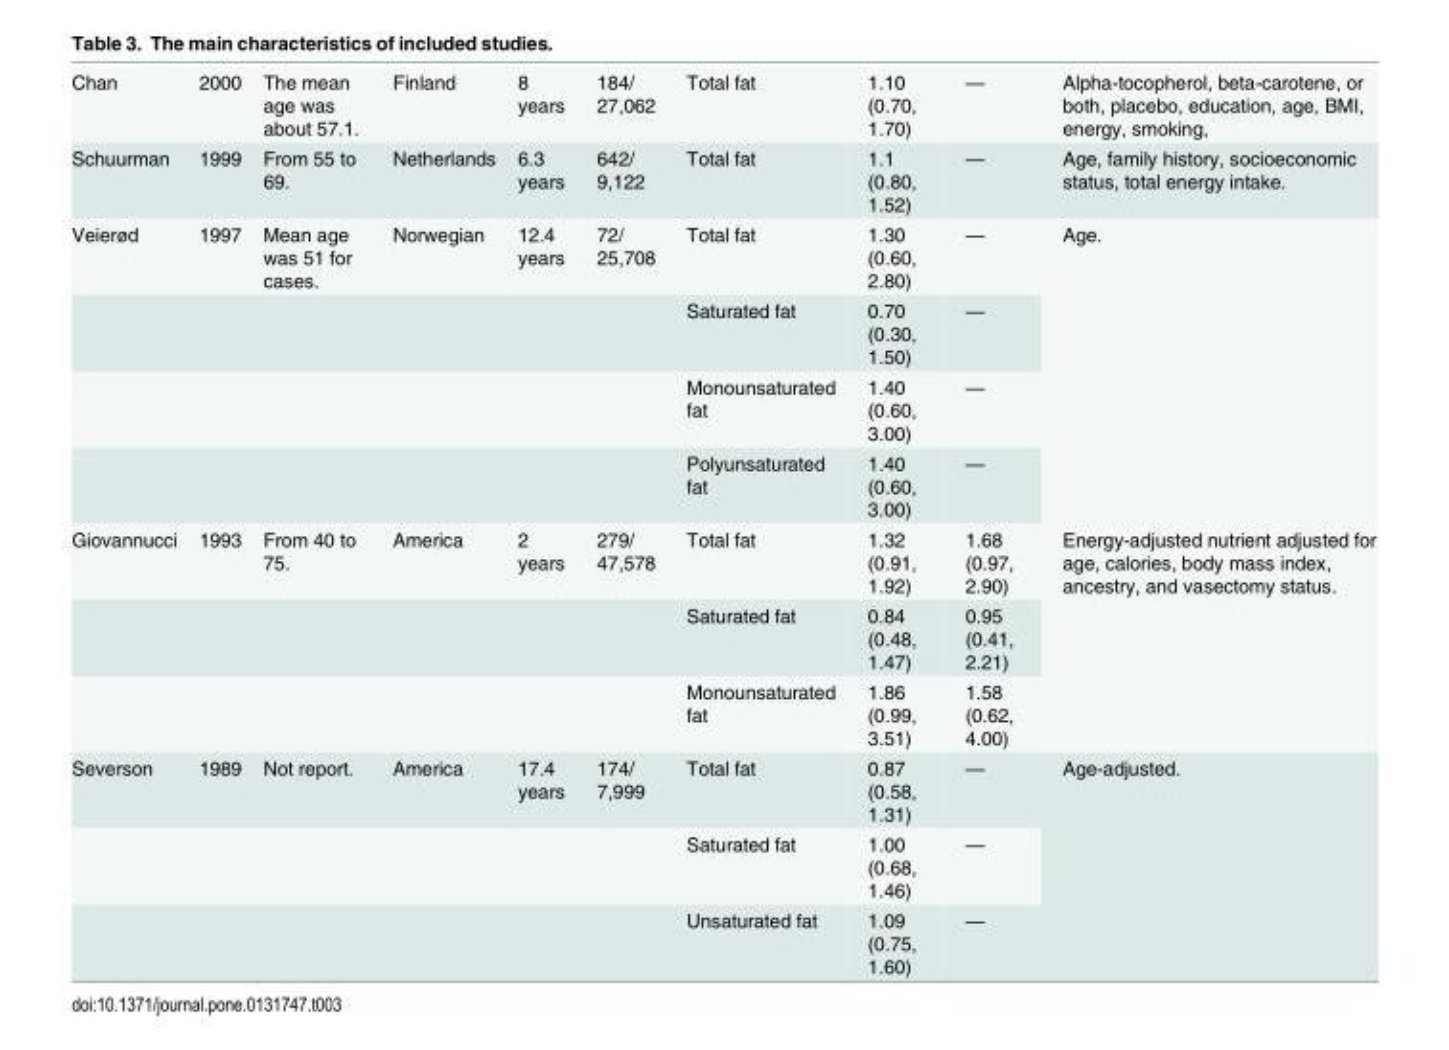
<table><tbody><tr><td>Chan</td><td>2000</td><td>The mean age was about 57.1.</td><td>Finland</td><td>8 years</td><td>184/ 27,062</td><td>Total fat</td><td>1.10 (0.70, 1.70)</td><td>—</td><td>Alpha-tocopherol, beta-carotene, or both, placebo, education, age, BMI, energy, smoking,</td></tr><tr><td>Schuurman</td><td>1999</td><td>From 55 to 69.</td><td>Netherlands</td><td>6.3 years</td><td>642/ 9,122</td><td>Total fat</td><td>1.1 (0.80, 1.52)</td><td>—</td><td>Age, family history, socioeconomic status, total energy intake.</td></tr><tr><td rowspan="4">Veierød</td><td>1997</td><td>Mean age was 51 for cases.</td><td>Norwegian</td><td>12.4 years</td><td>72/ 25,708</td><td>Total fat</td><td>1.30 (0.60, 2.80)</td><td>—</td><td rowspan="4">Age.</td></tr><tr><td></td><td></td><td></td><td></td><td></td><td>Saturated fat</td><td>0.70 (0.30, 1.50)</td><td>—</td></tr><tr><td></td><td></td><td></td><td></td><td></td><td>Monounsaturated fat</td><td>1.40 (0.60, 3.00)</td><td>—</td></tr><tr><td></td><td></td><td></td><td></td><td></td><td>Polyunsaturated fat</td><td>1.40 (0.60, 3.00)</td><td>—</td></tr><tr><td rowspan="3">Giovannucci</td><td>1993</td><td>From 40 to 75.</td><td>America</td><td>2 years</td><td>279/ 47,578</td><td>Total fat</td><td>1.32 (0.91, 1.92)</td><td>1.68 (0.97, 2.90)</td><td rowspan="3">Energy-adjusted nutrient adjusted for age, calories, body mass index, ancestry, and vasectomy status.</td></tr><tr><td></td><td></td><td></td><td></td><td></td><td>Saturated fat</td><td>0.84 (0.48, 1.47)</td><td>0.95 (0.41, 2.21)</td></tr><tr><td></td><td></td><td></td><td></td><td></td><td>Monounsaturated fat</td><td>1.86 (0.99, 3.51)</td><td>1.58 (0.62, 4.00)</td></tr><tr><td rowspan="3">Severson</td><td>1989</td><td>Not report.</td><td>America</td><td>17.4 years</td><td>174/ 7,999</td><td>Total fat</td><td>0.87 (0.58, 1.31)</td><td>—</td><td rowspan="3">Age-adjusted.</td></tr><tr><td></td><td></td><td></td><td></td><td></td><td>Saturated fat</td><td>1.00 (0.68, 1.46)</td><td>—</td></tr><tr><td></td><td></td><td></td><td></td><td></td><td>Unsaturated fat</td><td>1.09 (0.75, 1.60)</td><td>—</td></tr></tbody></table>